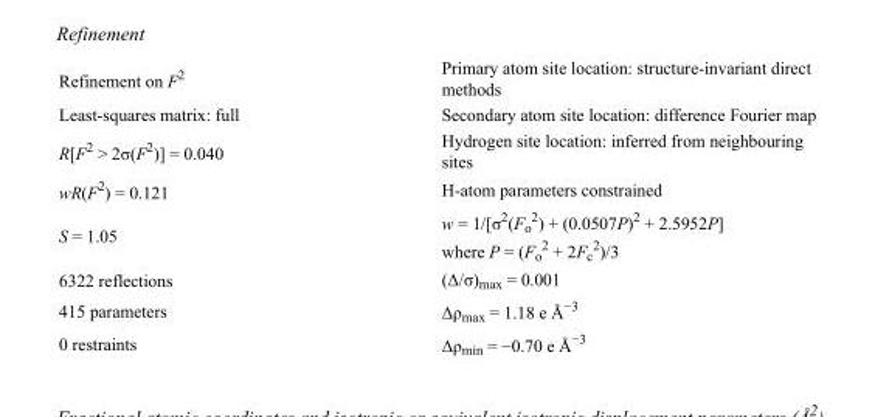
<table><tbody><tr><td>Refinement on F<sup>2</sup></td><td>Primary atom site location: structure-invariant direct methods</td></tr><tr><td>Least-squares matrix: full</td><td>Secondary atom site location: difference Fourier map</td></tr><tr><td>R[F<sup>2</sup> &gt; 2σ(F<sup>2</sup>)] = 0.040</td><td>Hydrogen site location: inferred from neighbouring sites</td></tr><tr><td>wR(F<sup>2</sup>) = 0.121</td><td>H-atom parameters constrained</td></tr><tr><td>S = 1.05</td><td>w = 1/[σ<sup>2</sup>(F<sub>o</sub> <sup>2</sup>) + (0.0507P)<sup>2</sup> + 2.5952P] where P = (F<sub>o</sub> <sup>2</sup> + 2F<sub>c</sub> <sup>2</sup>)/3</td></tr><tr><td>6322 reflections</td><td>(Δ/σ)<sub>max</sub> = 0.001</td></tr><tr><td>415 parameters</td><td>Δρ<sub>max</sub> = 1.18 e Å<sup>−3</sup></td></tr><tr><td>0 restraints</td><td>Δρ<sub>min</sub> = −0.70 e Å<sup>−3</sup></td></tr></tbody></table>